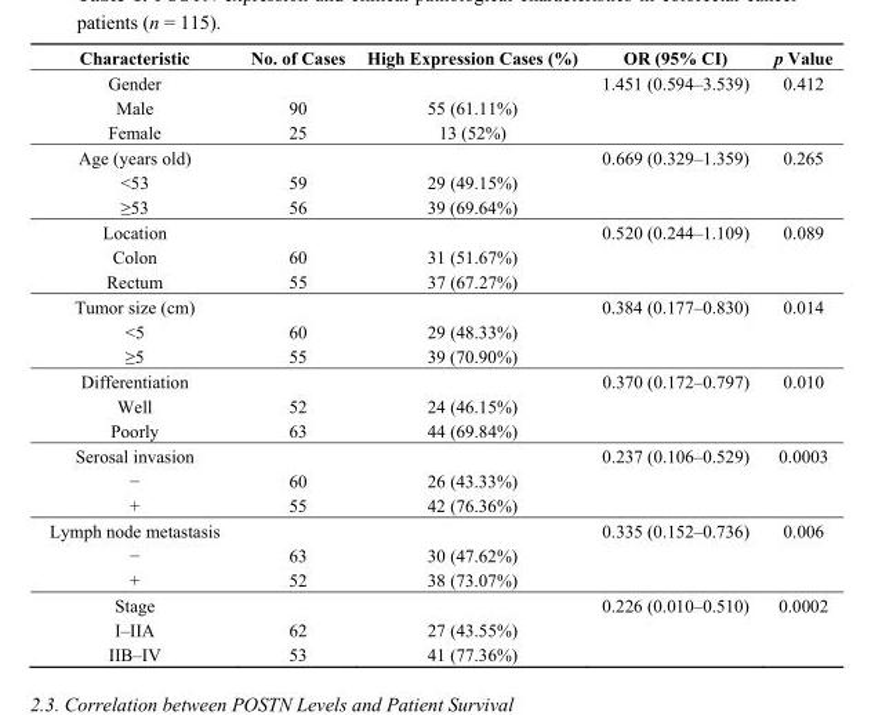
<table><thead><tr><td>Characteristic</td><td>No. of Cases</td><td>High Expression Cases (%)</td><td>OR (95% CI)</td><td>p Value</td></tr></thead><tbody><tr><td>Gender</td><td></td><td></td><td>1.451 (0.594–3.539)</td><td>0.412</td></tr><tr><td>Male</td><td>90</td><td>55 (61.11%)</td><td></td><td></td></tr><tr><td>Female</td><td>25</td><td>13 (52%)</td><td></td><td></td></tr><tr><td>Age (years old)</td><td></td><td></td><td>0.669 (0.329–1.359)</td><td>0.265</td></tr><tr><td>&lt;53</td><td>59</td><td>29 (49.15%)</td><td></td><td></td></tr><tr><td>≥53</td><td>56</td><td>39 (69.64%)</td><td></td><td></td></tr><tr><td>Location</td><td></td><td></td><td>0.520 (0.244–1.109)</td><td>0.089</td></tr><tr><td>Colon</td><td>60</td><td>31 (51.67%)</td><td></td><td></td></tr><tr><td>Rectum</td><td>55</td><td>37 (67.27%)</td><td></td><td></td></tr><tr><td>Tumor size (cm)</td><td></td><td></td><td>0.384 (0.177–0.830)</td><td>0.014</td></tr><tr><td>&lt;5</td><td>60</td><td>29 (48.33%)</td><td></td><td></td></tr><tr><td>≥5</td><td>55</td><td>39 (70.90%)</td><td></td><td></td></tr><tr><td>Differentiation</td><td></td><td></td><td>0.370 (0.172–0.797)</td><td>0.010</td></tr><tr><td>Well</td><td>52</td><td>24 (46.15%)</td><td></td><td></td></tr><tr><td>Poorly</td><td>63</td><td>44 (69.84%)</td><td></td><td></td></tr><tr><td>Serosal invasion</td><td></td><td></td><td>0.237 (0.106–0.529)</td><td>0.0003</td></tr><tr><td>−</td><td>60</td><td>26 (43.33%)</td><td></td><td></td></tr><tr><td>+</td><td>55</td><td>42 (76.36%)</td><td></td><td></td></tr><tr><td>Lymph node metastasis</td><td></td><td></td><td>0.335 (0.152–0.736)</td><td>0.006</td></tr><tr><td>−</td><td>63</td><td>30 (47.62%)</td><td></td><td></td></tr><tr><td>+</td><td>52</td><td>38 (73.07%)</td><td></td><td></td></tr><tr><td>Stage</td><td></td><td></td><td>0.226 (0.010–0.510)</td><td>0.0002</td></tr><tr><td>I–IIA</td><td>62</td><td>27 (43.55%)</td><td></td><td></td></tr><tr><td>IIB–IV</td><td>53</td><td>41 (77.36%)</td><td></td><td></td></tr></tbody></table>